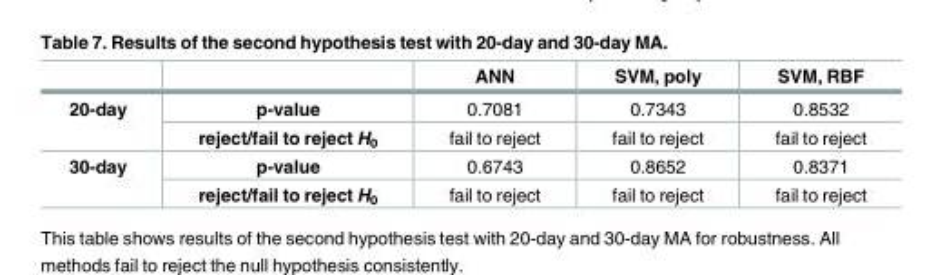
<table><thead><tr><td></td><td></td><td>ANN</td><td>SVM, poly</td><td>SVM, RBF</td></tr></thead><tbody><tr><td rowspan="2">20-day</td><td>p-value</td><td>0.7081</td><td>0.7343</td><td>0.8532</td></tr><tr><td>reject/fail to reject H<sub>0</sub></td><td>fail to reject</td><td>fail to reject</td><td>fail to reject</td></tr><tr><td rowspan="2">30-day</td><td>p-value</td><td>0.6743</td><td>0.8652</td><td>0.8371</td></tr><tr><td>reject/fail to reject H<sub>0</sub></td><td>fail to reject</td><td>fail to reject</td><td>fail to reject</td></tr></tbody></table>